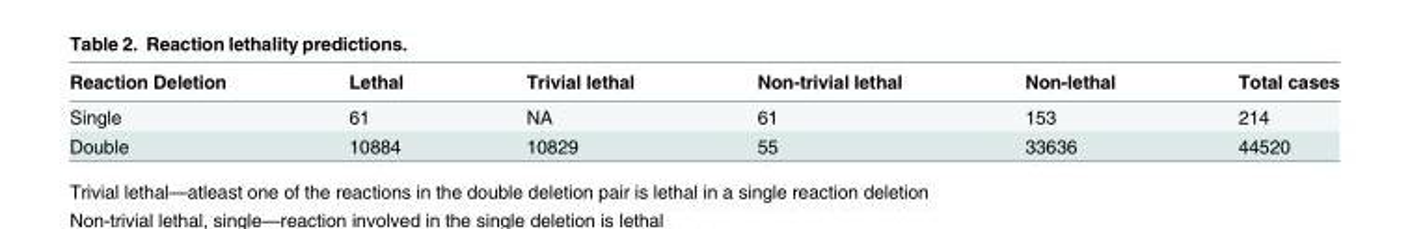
<table><thead><tr><td>Reaction Deletion</td><td>Lethal</td><td>Trivial lethal</td><td>Non-trivial lethal</td><td>Non-lethal</td><td>Total cases</td></tr></thead><tbody><tr><td>Single</td><td>61</td><td>NA</td><td>61</td><td>153</td><td>214</td></tr><tr><td>Double</td><td>10884</td><td>10829</td><td>55</td><td>33636</td><td>44520</td></tr></tbody></table>